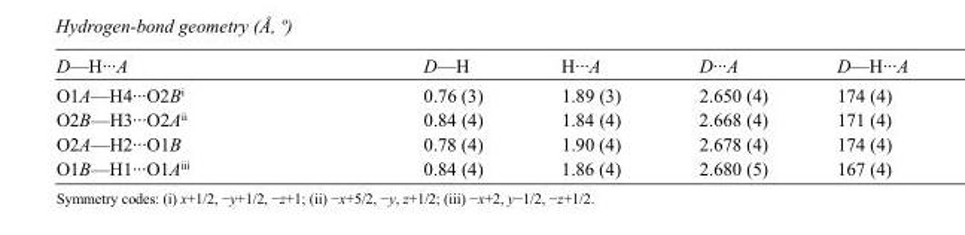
<table><tbody><tr><td>D—H···A</td><td>D—H</td><td>H···A</td><td>D···A</td><td>D—H···A</td></tr><tr><td>O1A—H4···O2B<sup>i</sup></td><td>0.76 (3)</td><td>1.89 (3)</td><td>2.650 (4)</td><td>174 (4)</td></tr><tr><td>O2B—H3···O2A<sup>ii</sup></td><td>0.84 (4)</td><td>1.84 (4)</td><td>2.668 (4)</td><td>171 (4)</td></tr><tr><td>O2A—H2···O1B</td><td>0.78 (4)</td><td>1.90 (4)</td><td>2.678 (4)</td><td>174 (4)</td></tr><tr><td>O1B—H1···O1A<sup>iii</sup></td><td>0.84 (4)</td><td>1.86 (4)</td><td>2.680 (5)</td><td>167 (4)</td></tr></tbody></table>